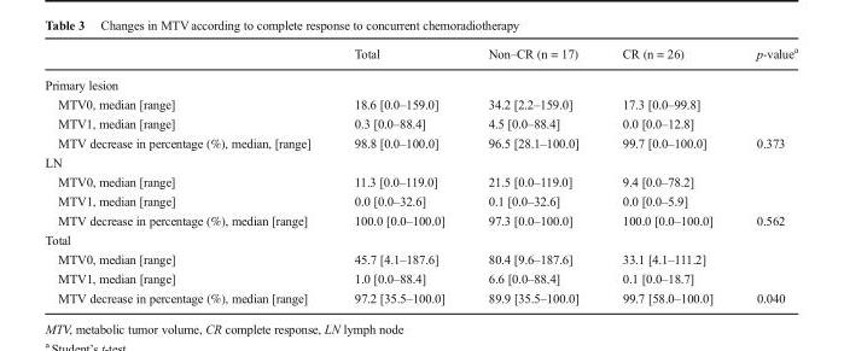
<table><thead><tr><td></td><td>Total</td><td>Non–CR (n = 17)</td><td>CR (n = 26)</td><td>p-value<sup>a</sup></td></tr></thead><tbody><tr><td colspan="5">Primary lesion</td></tr><tr><td>MTV0, median [range]</td><td>18.6 [0.0–159.0]</td><td>34.2 [2.2–159.0]</td><td>17.3 [0.0–99.8]</td><td></td></tr><tr><td>MTV1, median [range]</td><td>0.3 [0.0–88.4]</td><td>4.5 [0.0–88.4]</td><td>0.0 [0.0–12.8]</td><td></td></tr><tr><td>MTV decrease in percentage (%), median, [range]</td><td>98.8 [0.0–100.0]</td><td>96.5 [28.1–100.0]</td><td>99.7 [0.0–100.0]</td><td>0.373</td></tr><tr><td colspan="5">LN</td></tr><tr><td>MTV0, median [range]</td><td>11.3 [0.0–119.0]</td><td>21.5 [0.0–119.0]</td><td>9.4 [0.0–78.2]</td><td></td></tr><tr><td>MTV1, median [range]</td><td>0.0 [0.0–32.6]</td><td>0.1 [0.0–32.6]</td><td>0.0 [0.0–5.9]</td><td></td></tr><tr><td>MTV decrease in percentage (%), median [range]</td><td>100.0 [0.0–100.0]</td><td>97.3 [0.0–100.0]</td><td>100.0 [0.0–100.0]</td><td>0.562</td></tr><tr><td colspan="5">Total</td></tr><tr><td>MTV0, median [range]</td><td>45.7 [4.1–187.6]</td><td>80.4 [9.6–187.6]</td><td>33.1 [4.1–111.2]</td><td></td></tr><tr><td>MTV1, median [range]</td><td>1.0 [0.0–88.4]</td><td>6.6 [0.0–88.4]</td><td>0.1 [0.0–18.7]</td><td></td></tr><tr><td>MTV decrease in percentage (%), median [range]</td><td>97.2 [35.5–100.0]</td><td>89.9 [35.5–100.0]</td><td>99.7 [58.0–100.0]</td><td>0.040</td></tr></tbody></table>